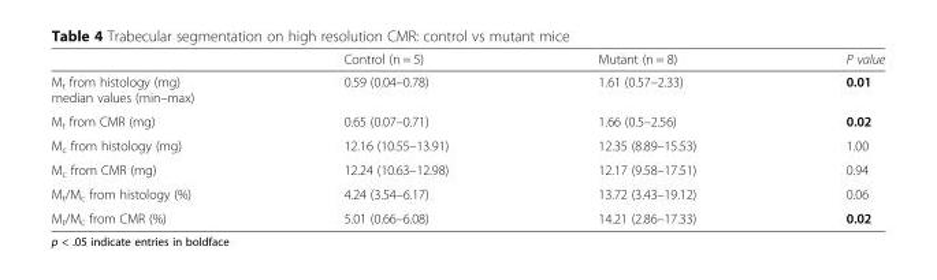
<table><thead><tr><td></td><td>Control (n = 5)</td><td>Mutant (n = 8)</td><td>P value</td></tr></thead><tbody><tr><td>M<sub>t</sub> from histology (mg) median values (min–max)</td><td>0.59 (0.04–0.78)</td><td>1.61 (0.57–2.33)</td><td>0.01</td></tr><tr><td>M<sub>t</sub> from CMR (mg)</td><td>0.65 (0.07–0.71)</td><td>1.66 (0.5–2.56)</td><td>0.02</td></tr><tr><td>M<sub>c</sub> from histology (mg)</td><td>12.16 (10.55–13.91)</td><td>12.35 (8.89–15.53)</td><td>1.00</td></tr><tr><td>M<sub>c</sub> from CMR (mg)</td><td>12.24 (10.63–12.98)</td><td>12.17 (9.58–17.51)</td><td>0.94</td></tr><tr><td>M<sub>t</sub>/M<sub>c</sub> from histology (%)</td><td>4.24 (3.54–6.17)</td><td>13.72 (3.43–19.12)</td><td>0.06</td></tr><tr><td>M<sub>t</sub>/M<sub>c</sub> from CMR (%)</td><td>5.01 (0.66–6.08)</td><td>14.21 (2.86–17.33)</td><td>0.02</td></tr></tbody></table>